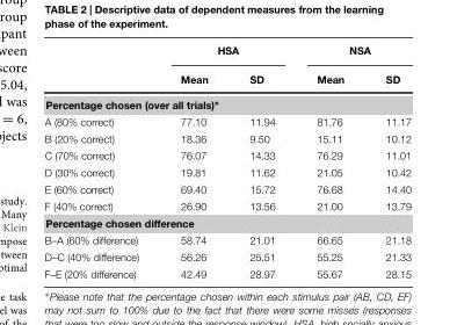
<table><thead><tr><td rowspan="2"></td><td colspan="2">HSA</td><td colspan="2">NSA</td></tr><tr><td>Mean</td><td>SD</td><td>Mean</td><td>SD</td></tr></thead><tbody><tr><td colspan="5">Percentage chosen (over all trials)∗</td></tr><tr><td>A (80% correct)</td><td>77.10</td><td>11.94</td><td>81.76</td><td>11.17</td></tr><tr><td>B (20% correct)</td><td>18.36</td><td>9.50</td><td>15.11</td><td>10.12</td></tr><tr><td>C (70% correct)</td><td>76.07</td><td>14.33</td><td>76.29</td><td>11.01</td></tr><tr><td>D (30% correct)</td><td>19.81</td><td>11.62</td><td>21.05</td><td>10.42</td></tr><tr><td>E (60% correct)</td><td>69.40</td><td>15.72</td><td>76.68</td><td>14.40</td></tr><tr><td>F (40% correct)</td><td>26.90</td><td>13.56</td><td>21.00</td><td>13.79</td></tr><tr><td colspan="5">Percentage chosen difference</td></tr><tr><td>B–A (60% difference)</td><td>58.74</td><td>21.01</td><td>66.65</td><td>21.18</td></tr><tr><td>D–C (40% difference)</td><td>56.26</td><td>25.51</td><td>55.25</td><td>21.33</td></tr><tr><td>F–E (20% difference)</td><td>42.49</td><td>28.97</td><td>55.67</td><td>28.15</td></tr></tbody></table>